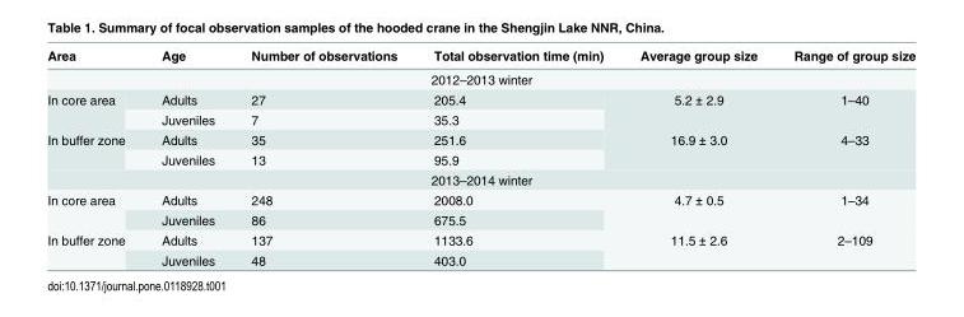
<table><thead><tr><td>Area</td><td>Age</td><td>Number of observations</td><td>Total observation time (min)</td><td>Average group size</td><td>Range of group size</td></tr></thead><tbody><tr><td colspan="6">2012–2013 winter</td></tr><tr><td rowspan="2">In core area</td><td>Adults</td><td>27</td><td>205.4</td><td rowspan="2">5.2 ± 2.9</td><td rowspan="2">1–40</td></tr><tr><td>Juveniles</td><td>7</td><td>35.3</td></tr><tr><td rowspan="2">In buffer zone</td><td>Adults</td><td>35</td><td>251.6</td><td rowspan="2">16.9 ± 3.0</td><td rowspan="2">4–33</td></tr><tr><td>Juveniles</td><td>13</td><td>95.9</td></tr><tr><td colspan="6">2013–2014 winter</td></tr><tr><td rowspan="2">In core area</td><td>Adults</td><td>248</td><td>2008.0</td><td rowspan="2">4.7 ± 0.5</td><td rowspan="2">1–34</td></tr><tr><td>Juveniles</td><td>86</td><td>675.5</td></tr><tr><td rowspan="2">In buffer zone</td><td>Adults</td><td>137</td><td>1133.6</td><td rowspan="2">11.5 ± 2.6</td><td rowspan="2">2–109</td></tr><tr><td>Juveniles</td><td>48</td><td>403.0</td></tr></tbody></table>